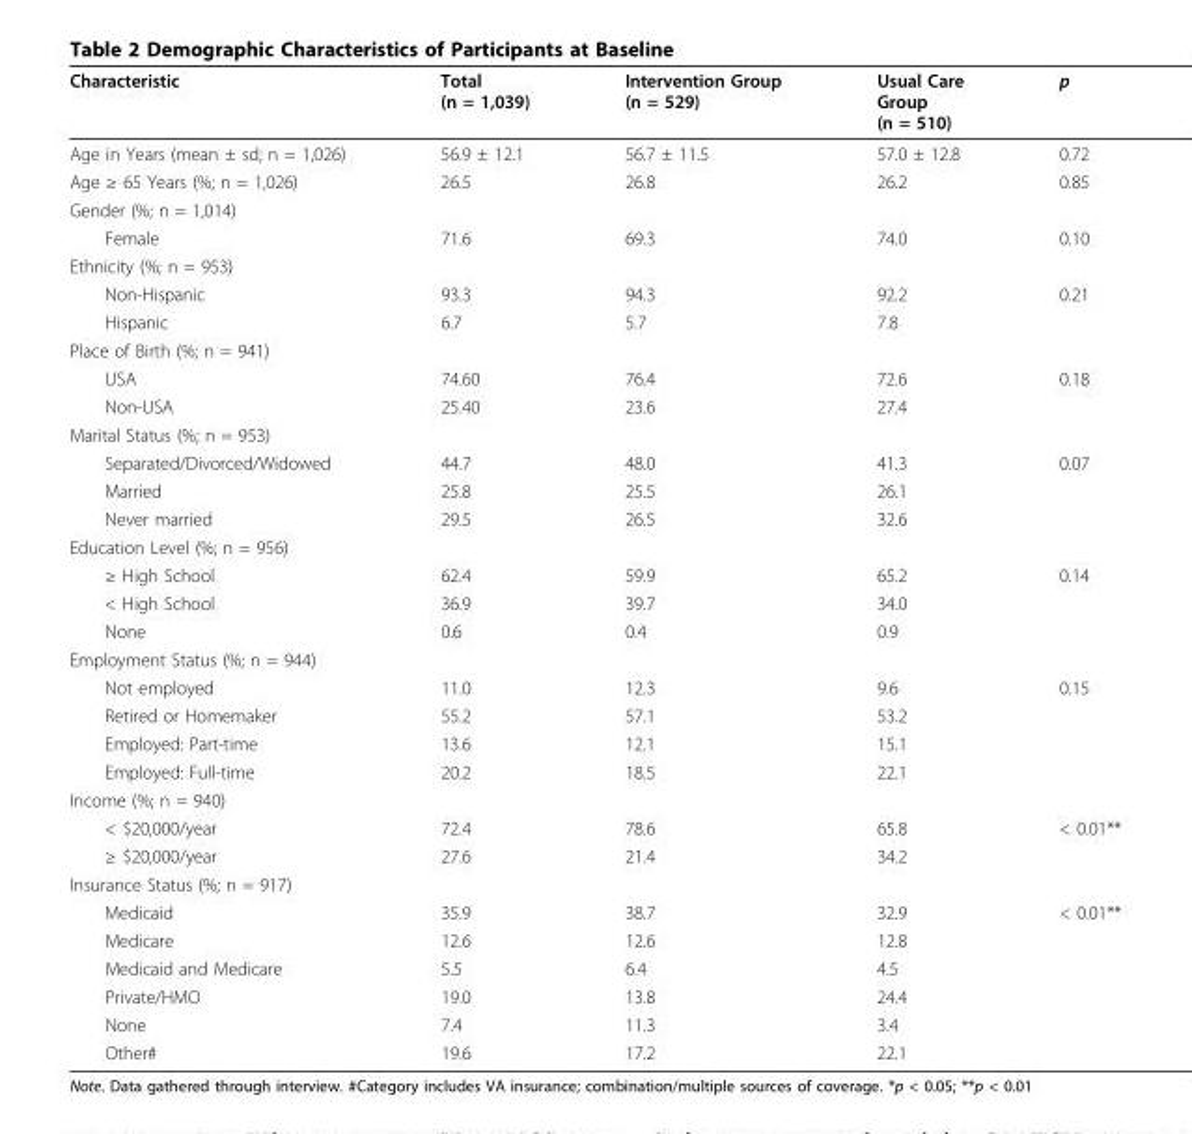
<table><thead><tr><td>Characteristic</td><td>Total (n = 1,039)</td><td>Intervention Group (n = 529)</td><td>Usual Care Group (n = 510)</td><td>p</td></tr></thead><tbody><tr><td>Age in Years (mean ± sd; n = 1,026)</td><td>56.9 ± 12.1</td><td>56.7 ± 11.5</td><td>57.0 ± 12.8</td><td>0.72</td></tr><tr><td>Age ≥ 65 Years (%; n = 1,026)</td><td>26.5</td><td>26.8</td><td>26.2</td><td>0.85</td></tr><tr><td colspan="5">Gender (%; n = 1,014)</td></tr><tr><td>Female</td><td>71.6</td><td>69.3</td><td>74.0</td><td>0.10</td></tr><tr><td colspan="5">Ethnicity (%; n = 953)</td></tr><tr><td>Non-Hispanic</td><td>93.3</td><td>94.3</td><td>92.2</td><td>0.21</td></tr><tr><td>Hispanic</td><td>6.7</td><td>5.7</td><td>7.8</td><td></td></tr><tr><td colspan="5">Place of Birth (%; n = 941)</td></tr><tr><td>USA</td><td>74.60</td><td>76.4</td><td>72.6</td><td>0.18</td></tr><tr><td>Non-USA</td><td>25.40</td><td>23.6</td><td>27.4</td><td></td></tr><tr><td colspan="5">Marital Status (%; n = 953)</td></tr><tr><td>Separated/Divorced/Widowed</td><td>44.7</td><td>48.0</td><td>41.3</td><td>0.07</td></tr><tr><td>Married</td><td>25.8</td><td>25.5</td><td>26.1</td><td></td></tr><tr><td>Never married</td><td>29.5</td><td>26.5</td><td>32.6</td><td></td></tr><tr><td colspan="5">Education Level (%; n = 956)</td></tr><tr><td>≥ High School</td><td>62.4</td><td>59.9</td><td>65.2</td><td>0.14</td></tr><tr><td>&lt; High School</td><td>36.9</td><td>39.7</td><td>34.0</td><td></td></tr><tr><td>None</td><td>0.6</td><td>0.4</td><td>0.9</td><td></td></tr><tr><td colspan="5">Employment Status (%; n = 944)</td></tr><tr><td>Not employed</td><td>11.0</td><td>12.3</td><td>9.6</td><td>0.15</td></tr><tr><td>Retired or Homemaker</td><td>55.2</td><td>57.1</td><td>53.2</td><td></td></tr><tr><td>Employed: Part-time</td><td>13.6</td><td>12.1</td><td>15.1</td><td></td></tr><tr><td>Employed: Full-time</td><td>20.2</td><td>18.5</td><td>22.1</td><td></td></tr><tr><td colspan="5">Income (%; n = 940)</td></tr><tr><td>&lt; $20,000/year</td><td>72.4</td><td>78.6</td><td>65.8</td><td>&lt; 0.01**</td></tr><tr><td>≥ $20,000/year</td><td>27.6</td><td>21.4</td><td>34.2</td><td></td></tr><tr><td colspan="5">Insurance Status (%; n = 917)</td></tr><tr><td>Medicaid</td><td>35.9</td><td>38.7</td><td>32.9</td><td>&lt; 0.01**</td></tr><tr><td>Medicare</td><td>12.6</td><td>12.6</td><td>12.8</td><td></td></tr><tr><td>Medicaid and Medicare</td><td>5.5</td><td>6.4</td><td>4.5</td><td></td></tr><tr><td>Private/HMO</td><td>19.0</td><td>13.8</td><td>24.4</td><td></td></tr><tr><td>None</td><td>7.4</td><td>11.3</td><td>3.4</td><td></td></tr><tr><td>Other#</td><td>19.6</td><td>17.2</td><td>22.1</td><td></td></tr></tbody></table>